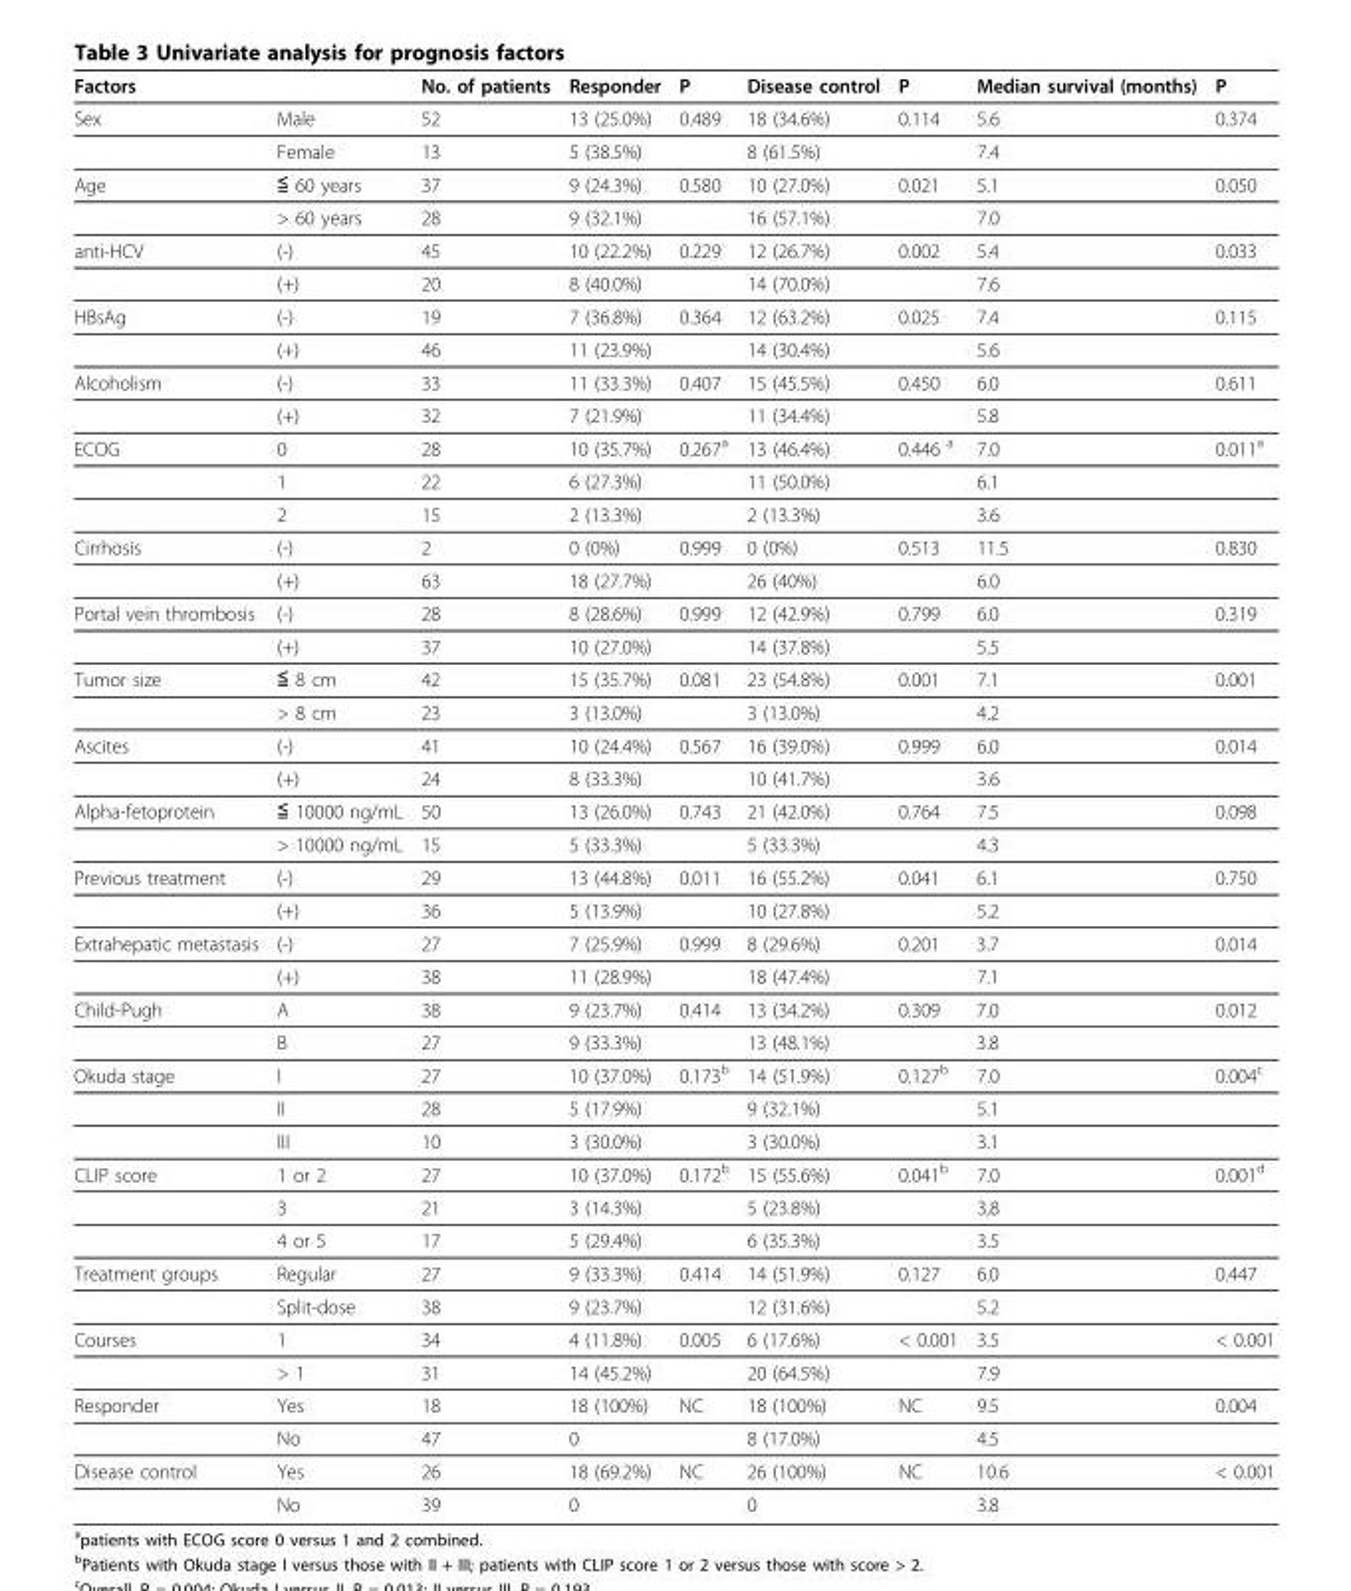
<table><thead><tr><td>Factors</td><td></td><td>No. of patients</td><td>Responder</td><td>P</td><td>Disease control</td><td>P</td><td>Median survival (months)</td><td>P</td></tr></thead><tbody><tr><td rowspan="2">Sex</td><td>Male</td><td>52</td><td>13 (25.0%)</td><td>0.489</td><td>18 (34.6%)</td><td>0.114</td><td>5.6</td><td>0.374</td></tr><tr><td>Female</td><td>13</td><td>5 (38.5%)</td><td></td><td>8 (61.5%)</td><td></td><td>7.4</td><td></td></tr><tr><td rowspan="2">Age</td><td>≦ 60 years</td><td>37</td><td>9 (24.3%)</td><td>0.580</td><td>10 (27.0%)</td><td>0.021</td><td>5.1</td><td>0.050</td></tr><tr><td>&gt; 60 years</td><td>28</td><td>9 (32.1%)</td><td></td><td>16 (57.1%)</td><td></td><td>7.0</td><td></td></tr><tr><td rowspan="2">anti-HCV</td><td>(-)</td><td>45</td><td>10 (22.2%)</td><td>0.229</td><td>12 (26.7%)</td><td>0.002</td><td>5.4</td><td>0.033</td></tr><tr><td>(+)</td><td>20</td><td>8 (40.0%)</td><td></td><td>14 (70.0%)</td><td></td><td>7.6</td><td></td></tr><tr><td rowspan="2">HBsAg</td><td>(-)</td><td>19</td><td>7 (36.8%)</td><td>0.364</td><td>12 (63.2%)</td><td>0.025</td><td>7.4</td><td>0.115</td></tr><tr><td>(+)</td><td>46</td><td>11 (23.9%)</td><td></td><td>14 (30.4%)</td><td></td><td>5.6</td><td></td></tr><tr><td rowspan="2">Alcoholism</td><td>(-)</td><td>33</td><td>11 (33.3%)</td><td>0.407</td><td>15 (45.5%)</td><td>0.450</td><td>6.0</td><td>0.611</td></tr><tr><td>(+)</td><td>32</td><td>7 (21.9%)</td><td></td><td>11 (34.4%)</td><td></td><td>5.8</td><td></td></tr><tr><td rowspan="3">ECOG</td><td>0</td><td>28</td><td>10 (35.7%)</td><td>0.267<sup>a</sup></td><td>13 (46.4%)</td><td>0.446 <sup>a</sup></td><td>7.0</td><td>0.011<sup>a</sup></td></tr><tr><td>1</td><td>22</td><td>6 (27.3%)</td><td></td><td>11 (50.0%)</td><td></td><td>6.1</td><td></td></tr><tr><td>2</td><td>15</td><td>2 (13.3%)</td><td></td><td>2 (13.3%)</td><td></td><td>3.6</td><td></td></tr><tr><td rowspan="2">Cirrhosis</td><td>(-)</td><td>2</td><td>0 (0%)</td><td>0.999</td><td>0 (0%)</td><td>0.513</td><td>11.5</td><td>0.830</td></tr><tr><td>(+)</td><td>63</td><td>18 (27.7%)</td><td></td><td>26 (40%)</td><td></td><td>6.0</td><td></td></tr><tr><td rowspan="2">Portal vein thrombosis</td><td>(-)</td><td>28</td><td>8 (28.6%)</td><td>0.999</td><td>12 (42.9%)</td><td>0.799</td><td>6.0</td><td>0.319</td></tr><tr><td>(+)</td><td>37</td><td>10 (27.0%)</td><td></td><td>14 (37.8%)</td><td></td><td>5.5</td><td></td></tr><tr><td rowspan="2">Tumor size</td><td>≦ 8 cm</td><td>42</td><td>15 (35.7%)</td><td>0.081</td><td>23 (54.8%)</td><td>0.001</td><td>7.1</td><td>0.001</td></tr><tr><td>&gt; 8 cm</td><td>23</td><td>3 (13.0%)</td><td></td><td>3 (13.0%)</td><td></td><td>4.2</td><td></td></tr><tr><td rowspan="2">Ascites</td><td>(-)</td><td>41</td><td>10 (24.4%)</td><td>0.567</td><td>16 (39.0%)</td><td>0.999</td><td>6.0</td><td>0.014</td></tr><tr><td>(+)</td><td>24</td><td>8 (33.3%)</td><td></td><td>10 (41.7%)</td><td></td><td>3.6</td><td></td></tr><tr><td rowspan="2">Alpha-fetoprotein</td><td>≦ 10000 ng/mL</td><td>50</td><td>13 (26.0%)</td><td>0.743</td><td>21 (42.0%)</td><td>0.764</td><td>7.5</td><td>0.098</td></tr><tr><td>&gt; 10000 ng/mL</td><td>15</td><td>5 (33.3%)</td><td></td><td>5 (33.3%)</td><td></td><td>4.3</td><td></td></tr><tr><td rowspan="2">Previous treatment</td><td>(-)</td><td>29</td><td>13 (44.8%)</td><td>0.011</td><td>16 (55.2%)</td><td>0.041</td><td>6.1</td><td>0.750</td></tr><tr><td>(+)</td><td>36</td><td>5 (13.9%)</td><td></td><td>10 (27.8%)</td><td></td><td>5.2</td><td></td></tr><tr><td rowspan="2">Extrahepatic metastasis</td><td>(-)</td><td>27</td><td>7 (25.9%)</td><td>0.999</td><td>8 (29.6%)</td><td>0.201</td><td>3.7</td><td>0.014</td></tr><tr><td>(+)</td><td>38</td><td>11 (28.9%)</td><td></td><td>18 (47.4%)</td><td></td><td>7.1</td><td></td></tr><tr><td rowspan="2">Child-Pugh</td><td>A</td><td>38</td><td>9 (23.7%)</td><td>0.414</td><td>13 (34.2%)</td><td>0.309</td><td>7.0</td><td>0.012</td></tr><tr><td>B</td><td>27</td><td>9 (33.3%)</td><td></td><td>13 (48.1%)</td><td></td><td>3.8</td><td></td></tr><tr><td rowspan="3">Okuda stage</td><td>I</td><td>27</td><td>10 (37.0%)</td><td>0.173<sup>b</sup></td><td>14 (51.9%)</td><td>0.127<sup>b</sup></td><td>7.0</td><td>0.004<sup>c</sup></td></tr><tr><td>II</td><td>28</td><td>5 (17.9%)</td><td></td><td>9 (32.1%)</td><td></td><td>5.1</td><td></td></tr><tr><td>III</td><td>10</td><td>3 (30.0%)</td><td></td><td>3 (30.0%)</td><td></td><td>3.1</td><td></td></tr><tr><td rowspan="3">CLIP score</td><td>1 or 2</td><td>27</td><td>10 (37.0%)</td><td>0.172<sup>b</sup></td><td>15 (55.6%)</td><td>0.041<sup>b</sup></td><td>7.0</td><td>0.001<sup>d</sup></td></tr><tr><td>3</td><td>21</td><td>3 (14.3%)</td><td></td><td>5 (23.8%)</td><td></td><td>3,8</td><td></td></tr><tr><td>4 or 5</td><td>17</td><td>5 (29.4%)</td><td></td><td>6 (35.3%)</td><td></td><td>3.5</td><td></td></tr><tr><td rowspan="2">Treatment groups</td><td>Regular</td><td>27</td><td>9 (33.3%)</td><td>0.414</td><td>14 (51.9%)</td><td>0.127</td><td>6.0</td><td>0.447</td></tr><tr><td>Split-dose</td><td>38</td><td>9 (23.7%)</td><td></td><td>12 (31.6%)</td><td></td><td>5.2</td><td></td></tr><tr><td rowspan="2">Courses</td><td>1</td><td>34</td><td>4 (11.8%)</td><td>0.005</td><td>6 (17.6%)</td><td>&lt; 0.001</td><td>3.5</td><td>&lt; 0.001</td></tr><tr><td>&gt; 1</td><td>31</td><td>14 (45.2%)</td><td></td><td>20 (64.5%)</td><td></td><td>7.9</td><td></td></tr><tr><td rowspan="2">Responder</td><td>Yes</td><td>18</td><td>18 (100%)</td><td>NC</td><td>18 (100%)</td><td>NC</td><td>9.5</td><td>0.004</td></tr><tr><td>No</td><td>47</td><td>0</td><td></td><td>8 (17.0%)</td><td></td><td>4.5</td><td></td></tr><tr><td rowspan="2">Disease control</td><td>Yes</td><td>26</td><td>18 (69.2%)</td><td>NC</td><td>26 (100%)</td><td>NC</td><td>10.6</td><td>&lt; 0.001</td></tr><tr><td>No</td><td>39</td><td>0</td><td></td><td>0</td><td></td><td>3.8</td><td></td></tr></tbody></table>